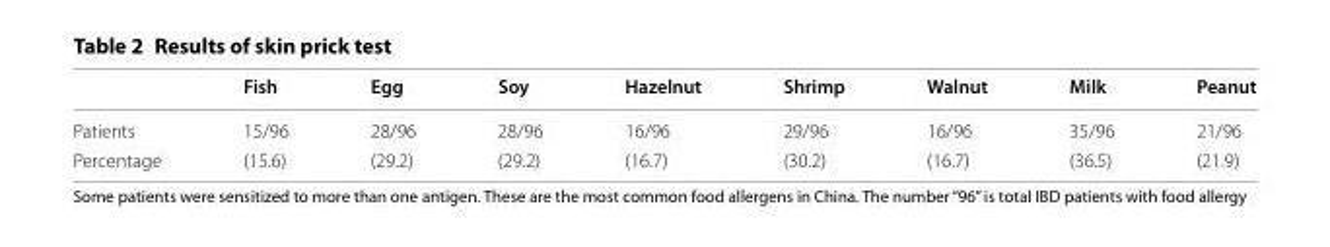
<table><thead><tr><td></td><td>Fish</td><td>Egg</td><td>Soy</td><td>Hazelnut</td><td>Shrimp</td><td>Walnut</td><td>Milk</td><td>Peanut</td></tr></thead><tbody><tr><td>Patients</td><td>15/96</td><td>28/96</td><td>28/96</td><td>16/96</td><td>29/96</td><td>16/96</td><td>35/96</td><td>21/96</td></tr><tr><td>Percentage</td><td>(15.6)</td><td>(29.2)</td><td>(29.2)</td><td>(16.7)</td><td>(30.2)</td><td>(16.7)</td><td>(36.5)</td><td>(21.9)</td></tr></tbody></table>